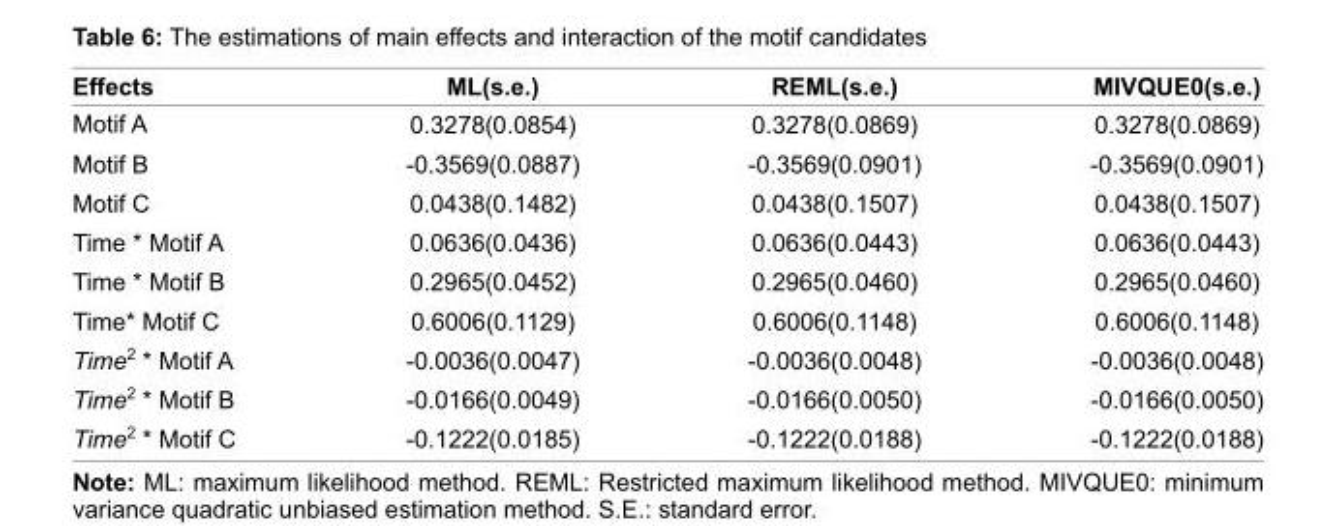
<table><thead><tr><td>Effects</td><td>ML(s.e.)</td><td>REML(s.e.)</td><td>MIVQUE0(s.e.)</td></tr></thead><tbody><tr><td>Motif A</td><td>0.3278(0.0854)</td><td>0.3278(0.0869)</td><td>0.3278(0.0869)</td></tr><tr><td>Motif B</td><td>-0.3569(0.0887)</td><td>-0.3569(0.0901)</td><td>-0.3569(0.0901)</td></tr><tr><td>Motif C</td><td>0.0438(0.1482)</td><td>0.0438(0.1507)</td><td>0.0438(0.1507)</td></tr><tr><td>Time * Motif A</td><td>0.0636(0.0436)</td><td>0.0636(0.0443)</td><td>0.0636(0.0443)</td></tr><tr><td>Time * Motif B</td><td>0.2965(0.0452)</td><td>0.2965(0.0460)</td><td>0.2965(0.0460)</td></tr><tr><td>Time* Motif C</td><td>0.6006(0.1129)</td><td>0.6006(0.1148)</td><td>0.6006(0.1148)</td></tr><tr><td>Time<sup>2</sup> * Motif A</td><td>-0.0036(0.0047)</td><td>-0.0036(0.0048)</td><td>-0.0036(0.0048)</td></tr><tr><td>Time<sup>2</sup> * Motif B</td><td>-0.0166(0.0049)</td><td>-0.0166(0.0050)</td><td>-0.0166(0.0050)</td></tr><tr><td>Time<sup>2</sup> * Motif C</td><td>-0.1222(0.0185)</td><td>-0.1222(0.0188)</td><td>-0.1222(0.0188)</td></tr></tbody></table>